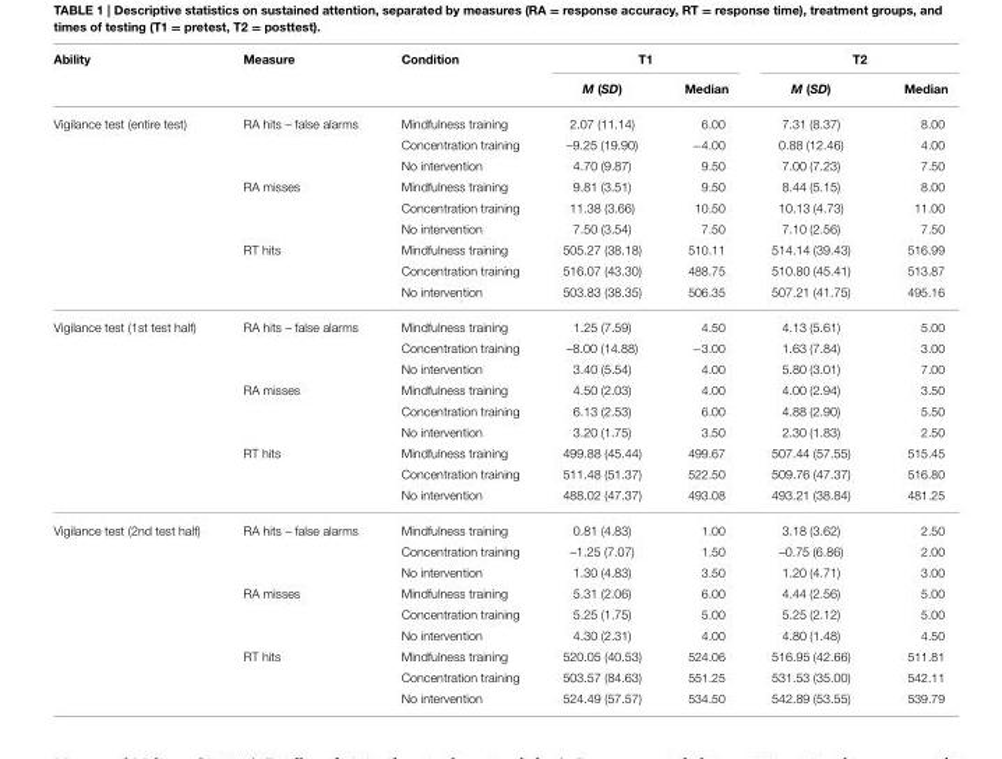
<table><thead><tr><td rowspan="2">Ability</td><td rowspan="2">Measure</td><td rowspan="2">Condition</td><td colspan="2">T1</td><td colspan="2">T2</td></tr><tr><td>M (SD)</td><td>Median</td><td>M (SD)</td><td>Median</td></tr></thead><tbody><tr><td rowspan="9">Vigilance test (entire test)</td><td>RA hits – false alarms</td><td>Mindfulness training</td><td>2.07 (11.14)</td><td>6.00</td><td>7.31 (8.37)</td><td>8.00</td></tr><tr><td></td><td>Concentration training</td><td>–9.25 (19.90)</td><td>−4.00</td><td>0.88 (12.46)</td><td>4.00</td></tr><tr><td></td><td>No intervention</td><td>4.70 (9.87)</td><td>9.50</td><td>7.00 (7.23)</td><td>7.50</td></tr><tr><td>RA misses</td><td>Mindfulness training</td><td>9.81 (3.51)</td><td>9.50</td><td>8.44 (5.15)</td><td>8.00</td></tr><tr><td></td><td>Concentration training</td><td>11.38 (3.66)</td><td>10.50</td><td>10.13 (4.73)</td><td>11.00</td></tr><tr><td></td><td>No intervention</td><td>7.50 (3.54)</td><td>7.50</td><td>7.10 (2.56)</td><td>7.50</td></tr><tr><td>RT hits</td><td>Mindfulness training</td><td>505.27 (38.18)</td><td>510.11</td><td>514.14 (39.43)</td><td>516.99</td></tr><tr><td></td><td>Concentration training</td><td>516.07 (43.30)</td><td>488.75</td><td>510.80 (45.41)</td><td>513.87</td></tr><tr><td></td><td>No intervention</td><td>503.83 (38.35)</td><td>506.35</td><td>507.21 (41.75)</td><td>495.16</td></tr><tr><td rowspan="9">Vigilance test (1st test half)</td><td>RA hits – false alarms</td><td>Mindfulness training</td><td>1.25 (7.59)</td><td>4.50</td><td>4.13 (5.61)</td><td>5.00</td></tr><tr><td></td><td>Concentration training</td><td>–8.00 (14.88)</td><td>−3.00</td><td>1.63 (7.84)</td><td>3.00</td></tr><tr><td></td><td>No intervention</td><td>3.40 (5.54)</td><td>4.00</td><td>5.80 (3.01)</td><td>7.00</td></tr><tr><td>RA misses</td><td>Mindfulness training</td><td>4.50 (2.03)</td><td>4.00</td><td>4.00 (2.94)</td><td>3.50</td></tr><tr><td></td><td>Concentration training</td><td>6.13 (2.53)</td><td>6.00</td><td>4.88 (2.90)</td><td>5.50</td></tr><tr><td></td><td>No intervention</td><td>3.20 (1.75)</td><td>3.50</td><td>2.30 (1.83)</td><td>2.50</td></tr><tr><td>RT hits</td><td>Mindfulness training</td><td>499.88 (45.44)</td><td>499.67</td><td>507.44 (57.55)</td><td>515.45</td></tr><tr><td></td><td>Concentration training</td><td>511.48 (51.37)</td><td>522.50</td><td>509.76 (47.37)</td><td>516.80</td></tr><tr><td></td><td>No intervention</td><td>488.02 (47.37)</td><td>493.08</td><td>493.21 (38.84)</td><td>481.25</td></tr><tr><td rowspan="9">Vigilance test (2nd test half)</td><td>RA hits – false alarms</td><td>Mindfulness training</td><td>0.81 (4.83)</td><td>1.00</td><td>3.18 (3.62)</td><td>2.50</td></tr><tr><td></td><td>Concentration training</td><td>–1.25 (7.07)</td><td>1.50</td><td>–0.75 (6.86)</td><td>2.00</td></tr><tr><td></td><td>No intervention</td><td>1.30 (4.83)</td><td>3.50</td><td>1.20 (4.71)</td><td>3.00</td></tr><tr><td>RA misses</td><td>Mindfulness training</td><td>5.31 (2.06)</td><td>6.00</td><td>4.44 (2.56)</td><td>5.00</td></tr><tr><td></td><td>Concentration training</td><td>5.25 (1.75)</td><td>5.00</td><td>5.25 (2.12)</td><td>5.00</td></tr><tr><td></td><td>No intervention</td><td>4.30 (2.31)</td><td>4.00</td><td>4.80 (1.48)</td><td>4.50</td></tr><tr><td>RT hits</td><td>Mindfulness training</td><td>520.05 (40.53)</td><td>524.06</td><td>516.95 (42.66)</td><td>511.81</td></tr><tr><td></td><td>Concentration training</td><td>503.57 (84.63)</td><td>551.25</td><td>531.53 (35.00)</td><td>542.11</td></tr><tr><td></td><td>No intervention</td><td>524.49 (57.57)</td><td>534.50</td><td>542.89 (53.55)</td><td>539.79</td></tr></tbody></table>